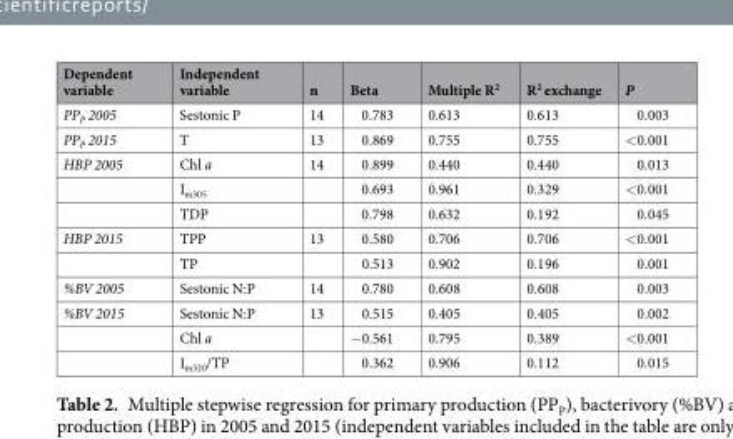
<table><thead><tr><td>Dependent variable</td><td>Independent variable</td><td>n</td><td>Beta</td><td>Multiple R<sup>2</sup></td><td>R<sup>2</sup> exchange</td><td>P</td></tr></thead><tbody><tr><td>PP<sub>P</sub> 2005</td><td>Sestonic P</td><td>14</td><td>0.783</td><td>0.613</td><td>0.613</td><td>0.003</td></tr><tr><td>PP<sub>P</sub> 2015</td><td>T</td><td>13</td><td>0.869</td><td>0.755</td><td>0.755</td><td>&lt;0.001</td></tr><tr><td rowspan="3">HBP 2005</td><td>Chl a</td><td>14</td><td>0.899</td><td>0.440</td><td>0.440</td><td>0.013</td></tr><tr><td>I<sub>m305</sub></td><td></td><td>0.693</td><td>0.961</td><td>0.329</td><td>&lt;0.001</td></tr><tr><td>TDP</td><td></td><td>0.798</td><td>0.632</td><td>0.192</td><td>0.045</td></tr><tr><td rowspan="2">HBP 2015</td><td>TPP</td><td>13</td><td>0.580</td><td>0.706</td><td>0.706</td><td>&lt;0.001</td></tr><tr><td>TP</td><td></td><td>0.513</td><td>0.902</td><td>0.196</td><td>0.001</td></tr><tr><td>%BV 2005</td><td>Sestonic N:P</td><td>14</td><td>0.780</td><td>0.608</td><td>0.608</td><td>0.003</td></tr><tr><td rowspan="3">%BV 2015</td><td>Sestonic N:P</td><td>13</td><td>0.515</td><td>0.405</td><td>0.405</td><td>0.002</td></tr><tr><td>Chl a</td><td></td><td>−0.561</td><td>0.795</td><td>0.389</td><td>&lt;0.001</td></tr><tr><td>I<sub>m320</sub>/TP</td><td></td><td>0.362</td><td>0.906</td><td>0.112</td><td>0.015</td></tr></tbody></table>